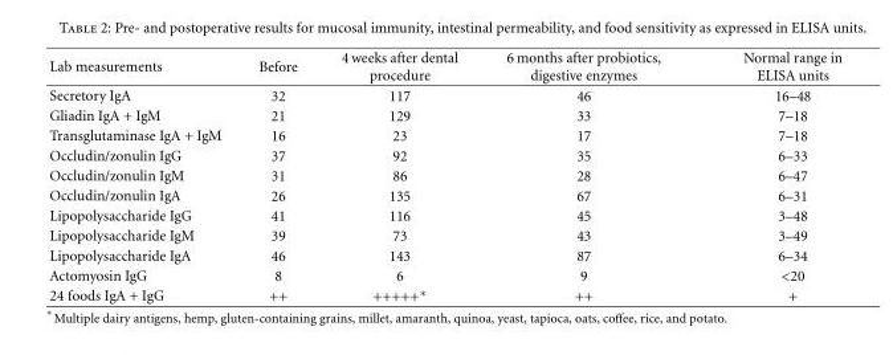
<table><thead><tr><td>Lab measurements</td><td>Before</td><td>4 weeks after dental procedure</td><td>6 months after probiotics, digestive enzymes</td><td>Normal range in ELISA units</td></tr></thead><tbody><tr><td>Secretory IgA</td><td>32</td><td>117</td><td>46</td><td>16–48</td></tr><tr><td>Gliadin IgA + IgM</td><td>21</td><td>129</td><td>33</td><td>7–18</td></tr><tr><td>Transglutaminase IgA + IgM</td><td>16</td><td>23</td><td>17</td><td>7–18</td></tr><tr><td>Occludin/zonulin IgG</td><td>37</td><td>92</td><td>35</td><td>6–33</td></tr><tr><td>Occludin/zonulin IgM</td><td>31</td><td>86</td><td>28</td><td>6–47</td></tr><tr><td>Occludin/zonulin IgA</td><td>26</td><td>135</td><td>67</td><td>6–31</td></tr><tr><td>Lipopolysaccharide IgG</td><td>41</td><td>116</td><td>45</td><td>3–48</td></tr><tr><td>Lipopolysaccharide IgM</td><td>39</td><td>73</td><td>43</td><td>3–49</td></tr><tr><td>Lipopolysaccharide IgA</td><td>46</td><td>143</td><td>87</td><td>6–34</td></tr><tr><td>Actomyosin IgG</td><td>8</td><td>6</td><td>9</td><td>&lt;20</td></tr><tr><td>24 foods IgA + IgG</td><td>++</td><td>+++++∗</td><td>++</td><td>+</td></tr></tbody></table>